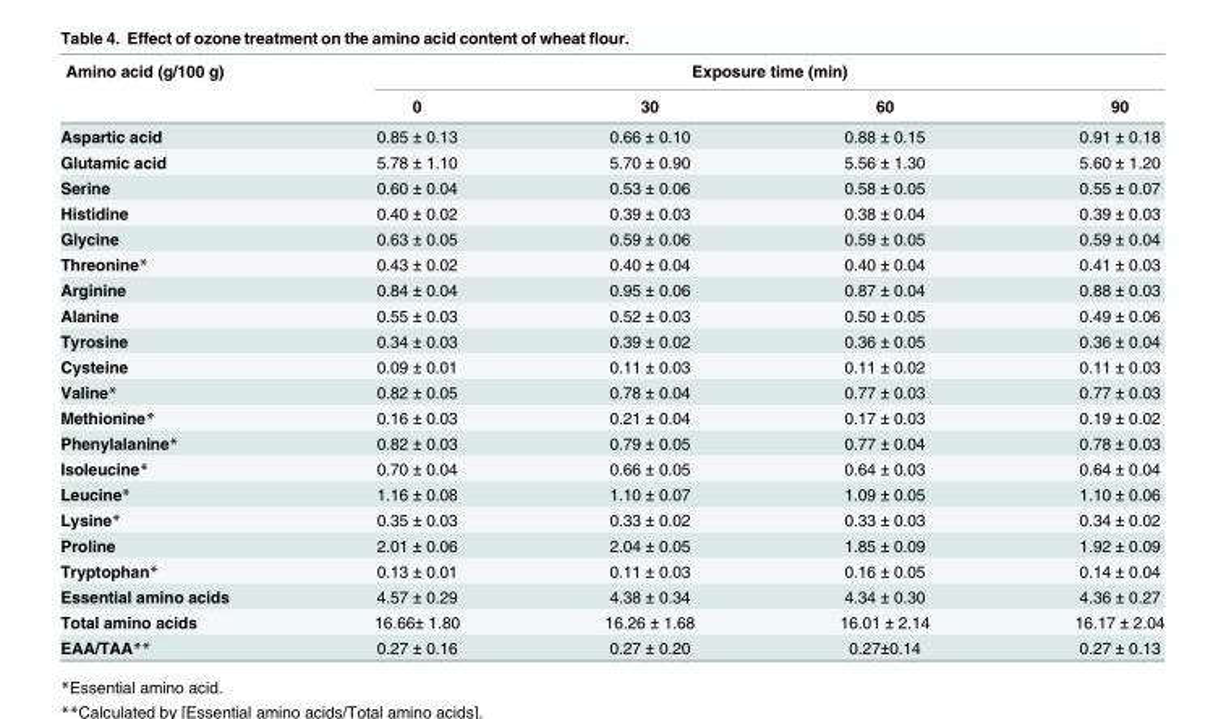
<table><thead><tr><td rowspan="2">Amino acid (g/100 g)</td><td colspan="4">Exposure time (min)</td></tr><tr><td>0</td><td>30</td><td>60</td><td>90</td></tr></thead><tbody><tr><td>Aspartic acid</td><td>0.85 ± 0.13</td><td>0.66 ± 0.10</td><td>0.88 ± 0.15</td><td>0.91 ± 0.18</td></tr><tr><td>Glutamic acid</td><td>5.78 ± 1.10</td><td>5.70 ± 0.90</td><td>5.56 ± 1.30</td><td>5.60 ± 1.20</td></tr><tr><td>Serine</td><td>0.60 ± 0.04</td><td>0.53 ± 0.06</td><td>0.58 ± 0.05</td><td>0.55 ± 0.07</td></tr><tr><td>Histidine</td><td>0.40 ± 0.02</td><td>0.39 ± 0.03</td><td>0.38 ± 0.04</td><td>0.39 ± 0.03</td></tr><tr><td>Glycine</td><td>0.63 ± 0.05</td><td>0.59 ± 0.06</td><td>0.59 ± 0.05</td><td>0.59 ± 0.04</td></tr><tr><td>Threonine*</td><td>0.43 ± 0.02</td><td>0.40 ± 0.04</td><td>0.40 ± 0.04</td><td>0.41 ± 0.03</td></tr><tr><td>Arginine</td><td>0.84 ± 0.04</td><td>0.95 ± 0.06</td><td>0.87 ± 0.04</td><td>0.88 ± 0.03</td></tr><tr><td>Alanine</td><td>0.55 ± 0.03</td><td>0.52 ± 0.03</td><td>0.50 ± 0.05</td><td>0.49 ± 0.06</td></tr><tr><td>Tyrosine</td><td>0.34 ± 0.03</td><td>0.39 ± 0.02</td><td>0.36 ± 0.05</td><td>0.36 ± 0.04</td></tr><tr><td>Cysteine</td><td>0.09 ± 0.01</td><td>0.11 ± 0.03</td><td>0.11 ± 0.02</td><td>0.11 ± 0.03</td></tr><tr><td>Valine*</td><td>0.82 ± 0.05</td><td>0.78 ± 0.04</td><td>0.77 ± 0.03</td><td>0.77 ± 0.03</td></tr><tr><td>Methionine*</td><td>0.16 ± 0.03</td><td>0.21 ± 0.04</td><td>0.17 ± 0.03</td><td>0.19 ± 0.02</td></tr><tr><td>Phenylalanine*</td><td>0.82 ± 0.03</td><td>0.79 ± 0.05</td><td>0.77 ± 0.04</td><td>0.78 ± 0.03</td></tr><tr><td>Isoleucine*</td><td>0.70 ± 0.04</td><td>0.66 ± 0.05</td><td>0.64 ± 0.03</td><td>0.64 ± 0.04</td></tr><tr><td>Leucine*</td><td>1.16 ± 0.08</td><td>1.10 ± 0.07</td><td>1.09 ± 0.05</td><td>1.10 ± 0.06</td></tr><tr><td>Lysine*</td><td>0.35 ± 0.03</td><td>0.33 ± 0.02</td><td>0.33 ± 0.03</td><td>0.34 ± 0.02</td></tr><tr><td>Proline</td><td>2.01 ± 0.06</td><td>2.04 ± 0.05</td><td>1.85 ± 0.09</td><td>1.92 ± 0.09</td></tr><tr><td>Tryptophan*</td><td>0.13 ± 0.01</td><td>0.11 ± 0.03</td><td>0.16 ± 0.05</td><td>0.14 ± 0.04</td></tr><tr><td>Essential amino acids</td><td>4.57 ± 0.29</td><td>4.38 ± 0.34</td><td>4.34 ± 0.30</td><td>4.36 ± 0.27</td></tr><tr><td>Total amino acids</td><td>16.66± 1.80</td><td>16.26 ± 1.68</td><td>16.01 ± 2.14</td><td>16.17 ± 2.04</td></tr><tr><td>EAA/TAA**</td><td>0.27 ± 0.16</td><td>0.27 ± 0.20</td><td>0.27±0.14</td><td>0.27 ± 0.13</td></tr></tbody></table>